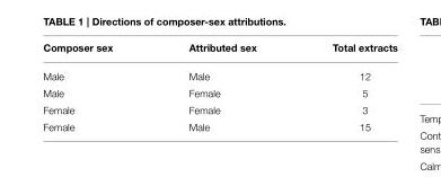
<table><thead><tr><td>Composer sex</td><td>Attributed sex</td><td>Total extracts</td></tr></thead><tbody><tr><td>Male</td><td>Male</td><td>12</td></tr><tr><td>Male</td><td>Female</td><td>5</td></tr><tr><td>Female</td><td>Female</td><td>3</td></tr><tr><td>Female</td><td>Male</td><td>15</td></tr></tbody></table>